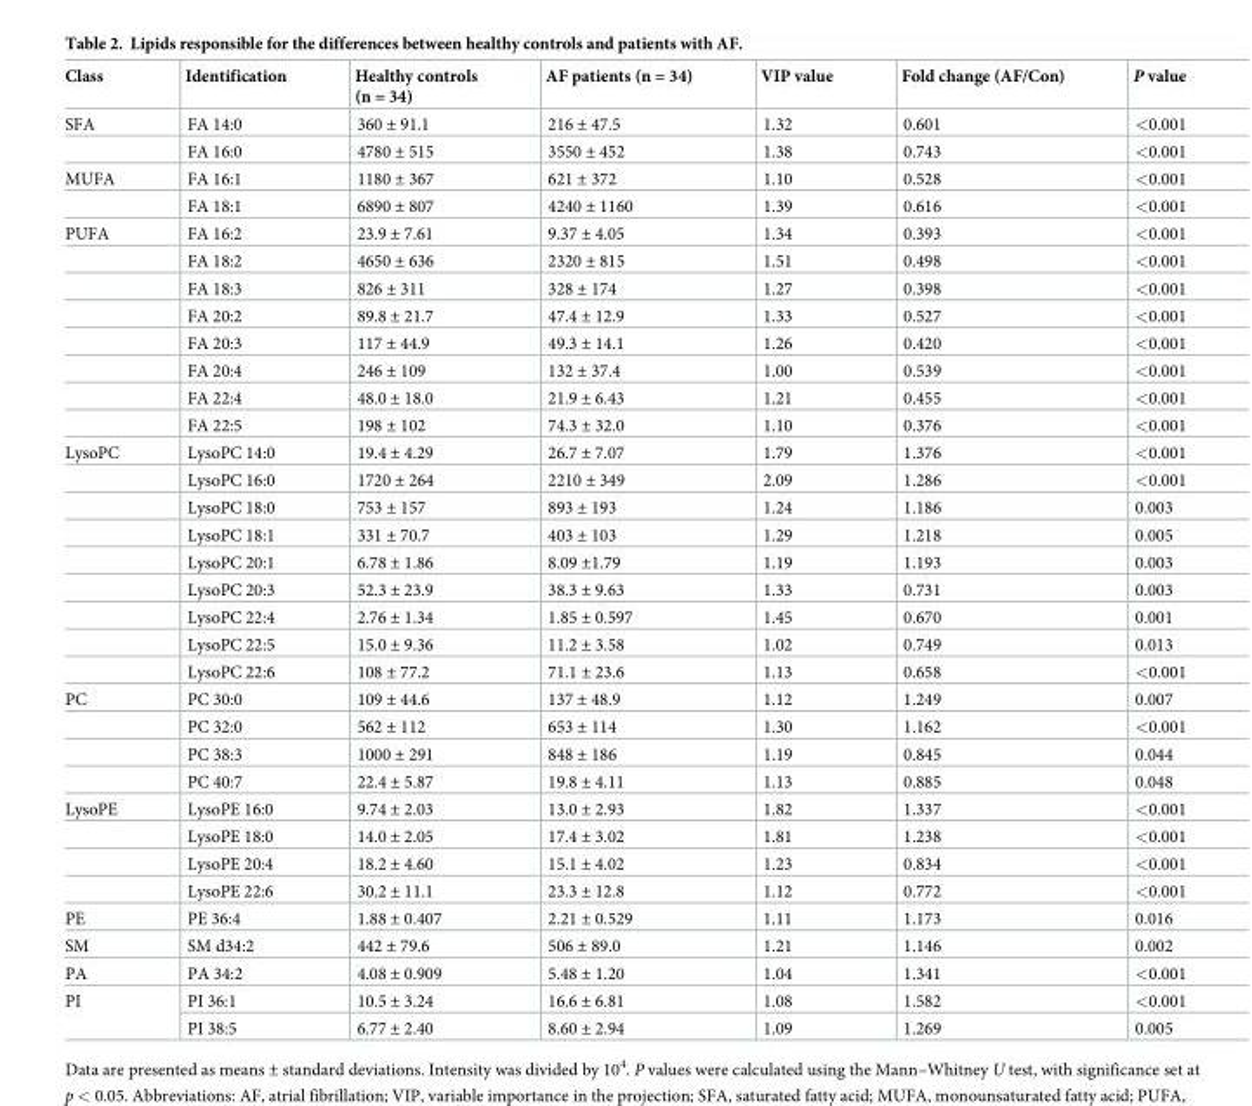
<table><thead><tr><td>Class</td><td>Identification</td><td>Healthy controls (n = 34)</td><td>AF patients (n = 34)</td><td>VIP value</td><td>Fold change (AF/Con)</td><td>P value</td></tr></thead><tbody><tr><td rowspan="2">SFA</td><td>FA 14:0</td><td>360 ± 91.1</td><td>216 ± 47.5</td><td>1.32</td><td>0.601</td><td>&lt;0.001</td></tr><tr><td>FA 16:0</td><td>4780 ± 515</td><td>3550 ± 452</td><td>1.38</td><td>0.743</td><td>&lt;0.001</td></tr><tr><td rowspan="2">MUFA</td><td>FA 16:1</td><td>1180 ± 367</td><td>621 ± 372</td><td>1.10</td><td>0.528</td><td>&lt;0.001</td></tr><tr><td>FA 18:1</td><td>6890 ± 807</td><td>4240 ± 1160</td><td>1.39</td><td>0.616</td><td>&lt;0.001</td></tr><tr><td rowspan="8">PUFA</td><td>FA 16:2</td><td>23.9 ± 7.61</td><td>9.37 ± 4.05</td><td>1.34</td><td>0.393</td><td>&lt;0.001</td></tr><tr><td>FA 18:2</td><td>4650 ± 636</td><td>2320 ± 815</td><td>1.51</td><td>0.498</td><td>&lt;0.001</td></tr><tr><td>FA 18:3</td><td>826 ± 311</td><td>328 ± 174</td><td>1.27</td><td>0.398</td><td>&lt;0.001</td></tr><tr><td>FA 20:2</td><td>89.8 ± 21.7</td><td>47.4 ± 12.9</td><td>1.33</td><td>0.527</td><td>&lt;0.001</td></tr><tr><td>FA 20:3</td><td>117 ± 44.9</td><td>49.3 ± 14.1</td><td>1.26</td><td>0.420</td><td>&lt;0.001</td></tr><tr><td>FA 20:4</td><td>246 ± 109</td><td>132 ± 37.4</td><td>1.00</td><td>0.539</td><td>&lt;0.001</td></tr><tr><td>FA 22:4</td><td>48.0 ± 18.0</td><td>21.9 ± 6.43</td><td>1.21</td><td>0.455</td><td>&lt;0.001</td></tr><tr><td>FA 22:5</td><td>198 ± 102</td><td>74.3 ± 32.0</td><td>1.10</td><td>0.376</td><td>&lt;0.001</td></tr><tr><td rowspan="9">LysoPC</td><td>LysoPC 14:0</td><td>19.4 ± 4.29</td><td>26.7 ± 7.07</td><td>1.79</td><td>1.376</td><td>&lt;0.001</td></tr><tr><td>LysoPC 16:0</td><td>1720 ± 264</td><td>2210 ± 349</td><td>2.09</td><td>1.286</td><td>&lt;0.001</td></tr><tr><td>LysoPC 18:0</td><td>753 ± 157</td><td>893 ± 193</td><td>1.24</td><td>1.186</td><td>0.003</td></tr><tr><td>LysoPC 18:1</td><td>331 ± 70.7</td><td>403 ± 103</td><td>1.29</td><td>1.218</td><td>0.005</td></tr><tr><td>LysoPC 20:1</td><td>6.78 ± 1.86</td><td>8.09 ±1.79</td><td>1.19</td><td>1.193</td><td>0.003</td></tr><tr><td>LysoPC 20:3</td><td>52.3 ± 23.9</td><td>38.3 ± 9.63</td><td>1.33</td><td>0.731</td><td>0.003</td></tr><tr><td>LysoPC 22:4</td><td>2.76 ± 1.34</td><td>1.85 ± 0.597</td><td>1.45</td><td>0.670</td><td>0.001</td></tr><tr><td>LysoPC 22:5</td><td>15.0 ± 9.36</td><td>11.2 ± 3.58</td><td>1.02</td><td>0.749</td><td>0.013</td></tr><tr><td>LysoPC 22:6</td><td>108 ± 77.2</td><td>71.1 ± 23.6</td><td>1.13</td><td>0.658</td><td>&lt;0.001</td></tr><tr><td rowspan="4">PC</td><td>PC 30:0</td><td>109 ± 44.6</td><td>137 ± 48.9</td><td>1.12</td><td>1.249</td><td>0.007</td></tr><tr><td>PC 32:0</td><td>562 ± 112</td><td>653 ± 114</td><td>1.30</td><td>1.162</td><td>&lt;0.001</td></tr><tr><td>PC 38:3</td><td>1000 ± 291</td><td>848 ± 186</td><td>1.19</td><td>0.845</td><td>0.044</td></tr><tr><td>PC 40:7</td><td>22.4 ± 5.87</td><td>19.8 ± 4.11</td><td>1.13</td><td>0.885</td><td>0.048</td></tr><tr><td rowspan="4">LysoPE</td><td>LysoPE 16:0</td><td>9.74 ± 2.03</td><td>13.0 ± 2.93</td><td>1.82</td><td>1.337</td><td>&lt;0.001</td></tr><tr><td>LysoPE 18:0</td><td>14.0 ± 2.05</td><td>17.4 ± 3.02</td><td>1.81</td><td>1.238</td><td>&lt;0.001</td></tr><tr><td>LysoPE 20:4</td><td>18.2 ± 4.60</td><td>15.1 ± 4.02</td><td>1.23</td><td>0.834</td><td>&lt;0.001</td></tr><tr><td>LysoPE 22:6</td><td>30.2 ± 11.1</td><td>23.3 ± 12.8</td><td>1.12</td><td>0.772</td><td>&lt;0.001</td></tr><tr><td>PE</td><td>PE 36:4</td><td>1.88 ± 0.407</td><td>2.21 ± 0.529</td><td>1.11</td><td>1.173</td><td>0.016</td></tr><tr><td>SM</td><td>SM d34:2</td><td>442 ± 79.6</td><td>506 ± 89.0</td><td>1.21</td><td>1.146</td><td>0.002</td></tr><tr><td>PA</td><td>PA 34:2</td><td>4.08 ± 0.909</td><td>5.48 ± 1.20</td><td>1.04</td><td>1.341</td><td>&lt;0.001</td></tr><tr><td rowspan="2">PI</td><td>PI 36:1</td><td>10.5 ± 3.24</td><td>16.6 ± 6.81</td><td>1.08</td><td>1.582</td><td>&lt;0.001</td></tr><tr><td>PI 38:5</td><td>6.77 ± 2.40</td><td>8.60 ± 2.94</td><td>1.09</td><td>1.269</td><td>0.005</td></tr></tbody></table>